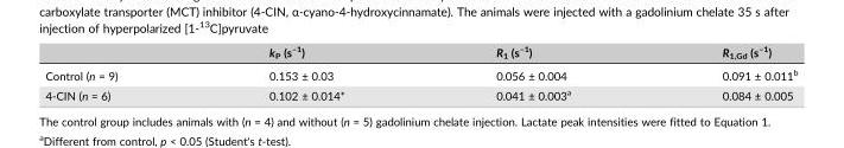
<table><thead><tr><td></td><td>k<sub>P</sub> (s<sup>–1</sup>)</td><td>R<sub>1</sub> (s<sup>–1</sup>)</td><td>R<sub>1,Gd</sub> (s<sup>–1</sup>)</td></tr></thead><tbody><tr><td>Control (n = 9)</td><td>0.153 ± 0.03</td><td>0.056 ± 0.004</td><td>0.091 ± 0.011<sup>b</sup></td></tr><tr><td>4‐CIN (n = 6)</td><td>0.102 ± 0.014*</td><td>0.041 ± 0.003<sup>a</sup></td><td>0.084 ± 0.005</td></tr></tbody></table>